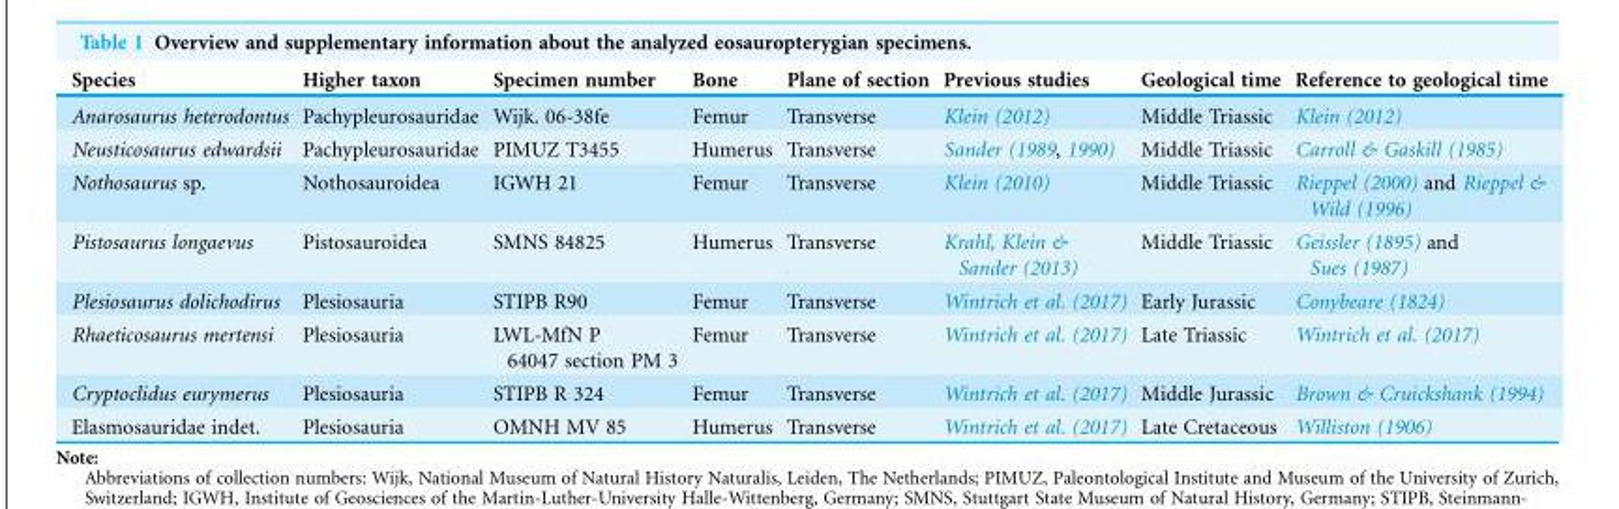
<table><thead><tr><td>Species</td><td>Higher taxon</td><td>Specimen number</td><td>Bone</td><td>Plane of section</td><td>Previous studies</td><td>Geological time</td><td>Reference to geological time</td></tr></thead><tbody><tr><td>Anarosaurus heterodontus</td><td>Pachypleurosauridae</td><td>Wijk. 06-38fe</td><td>Femur</td><td>Transverse</td><td>Klein (2012)</td><td>Middle Triassic</td><td>Klein (2012)</td></tr><tr><td>Neusticosaurus edwardsii</td><td>Pachypleurosauridae</td><td>PIMUZ T3455</td><td>Humerus</td><td>Transverse</td><td>Sander (1989, 1990)</td><td>Middle Triassic</td><td>Carroll &amp; Gaskill (1985)</td></tr><tr><td>Nothosaurus sp.</td><td>Nothosauroidea</td><td>IGWH 21</td><td>Femur</td><td>Transverse</td><td>Klein (2010)</td><td>Middle Triassic</td><td>Rieppel (2000) and Rieppel &amp; Wild (1996)</td></tr><tr><td>Pistosaurus longaevus</td><td>Pistosauroidea</td><td>SMNS 84825</td><td>Humerus</td><td>Transverse</td><td>Krahl, Klein &amp; Sander (2013)</td><td>Middle Triassic</td><td>Geissler (1895) and Sues (1987)</td></tr><tr><td>Plesiosaurus dolichodirus</td><td>Plesiosauria</td><td>STIPB R90</td><td>Femur</td><td>Transverse</td><td>Wintrich et al. (2017)</td><td>Early Jurassic</td><td>Conybeare (1824)</td></tr><tr><td>Rhaeticosaurus mertensi</td><td>Plesiosauria</td><td>LWL-MfN P 64047 section PM 3</td><td>Femur</td><td>Transverse</td><td>Wintrich et al. (2017)</td><td>Late Triassic</td><td>Wintrich et al. (2017)</td></tr><tr><td>Cryptoclidus eurymerus</td><td>Plesiosauria</td><td>STIPB R 324</td><td>Femur</td><td>Transverse</td><td>Wintrich et al. (2017)</td><td>Middle Jurassic</td><td>Brown &amp; Cruickshank (1994)</td></tr><tr><td>Elasmosauridae indet.</td><td>Plesiosauria</td><td>OMNH MV 85</td><td>Humerus</td><td>Transverse</td><td>Wintrich et al. (2017)</td><td>Late Cretaceous</td><td>Williston (1906)</td></tr></tbody></table>